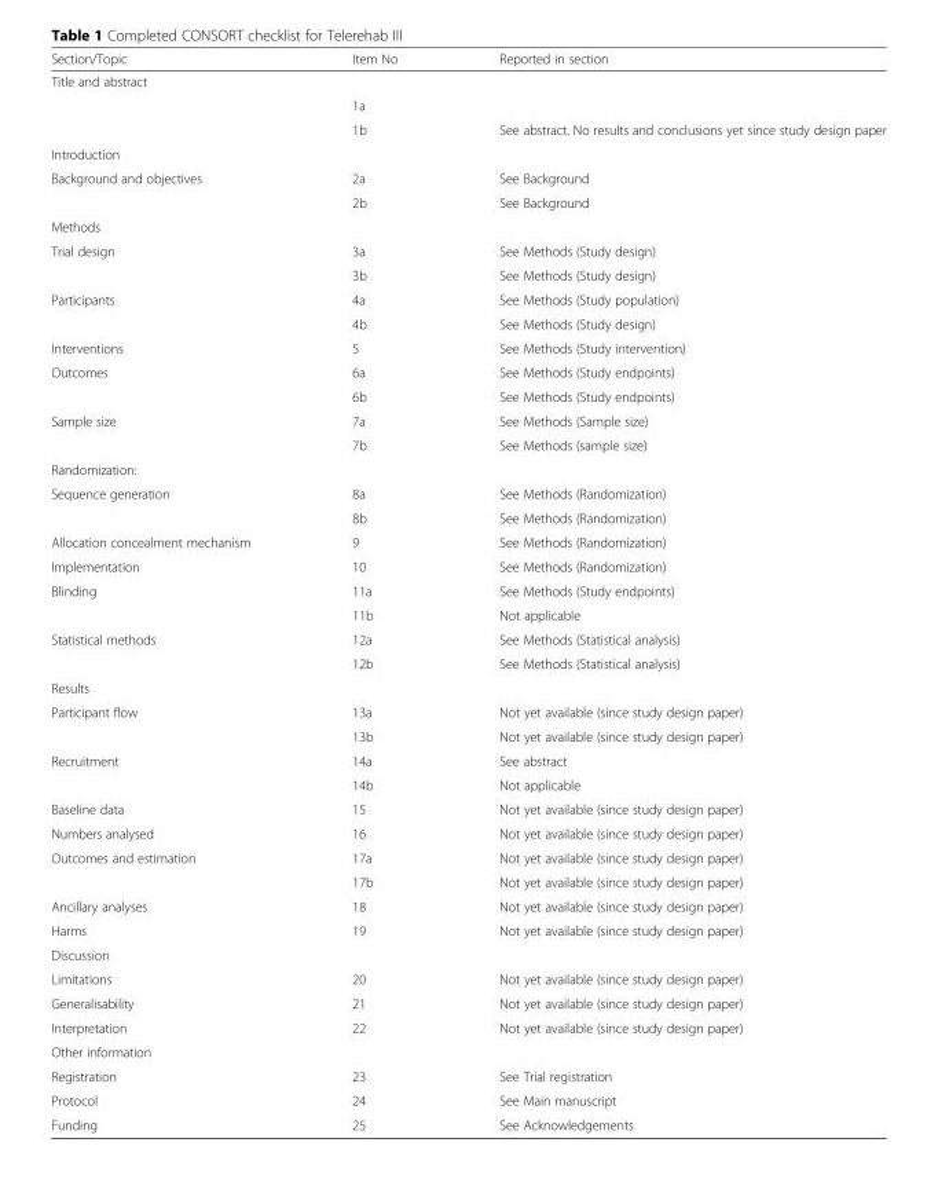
<table><thead><tr><td>Section/Topic</td><td>Item No</td><td>Reported in section</td></tr></thead><tbody><tr><td colspan="3">Title and abstract</td></tr><tr><td></td><td>1a</td><td></td></tr><tr><td></td><td>1b</td><td>See abstract. No results and conclusions yet since study design paper</td></tr><tr><td colspan="3">Introduction</td></tr><tr><td rowspan="2">Background and objectives</td><td>2a</td><td>See Background</td></tr><tr><td>2b</td><td>See Background</td></tr><tr><td colspan="3">Methods</td></tr><tr><td rowspan="2">Trial design</td><td>3a</td><td>See Methods (Study design)</td></tr><tr><td>3b</td><td>See Methods (Study design)</td></tr><tr><td rowspan="2">Participants</td><td>4a</td><td>See Methods (Study population)</td></tr><tr><td>4b</td><td>See Methods (Study design)</td></tr><tr><td>Interventions</td><td>5</td><td>See Methods (Study intervention)</td></tr><tr><td rowspan="2">Outcomes</td><td>6a</td><td>See Methods (Study endpoints)</td></tr><tr><td>6b</td><td>See Methods (Study endpoints)</td></tr><tr><td rowspan="2">Sample size</td><td>7a</td><td>See Methods (Sample size)</td></tr><tr><td>7b</td><td>See Methods (sample size)</td></tr><tr><td colspan="3">Randomization:</td></tr><tr><td rowspan="2">Sequence generation</td><td>8a</td><td>See Methods (Randomization)</td></tr><tr><td>8b</td><td>See Methods (Randomization)</td></tr><tr><td>Allocation concealment mechanism</td><td>9</td><td>See Methods (Randomization)</td></tr><tr><td>Implementation</td><td>10</td><td>See Methods (Randomization)</td></tr><tr><td rowspan="2">Blinding</td><td>11a</td><td>See Methods (Study endpoints)</td></tr><tr><td>11b</td><td>Not applicable</td></tr><tr><td rowspan="2">Statistical methods</td><td>12a</td><td>See Methods (Statistical analysis)</td></tr><tr><td>12b</td><td>See Methods (Statistical analysis)</td></tr><tr><td colspan="3">Results</td></tr><tr><td rowspan="2">Participant flow</td><td>13a</td><td>Not yet available (since study design paper)</td></tr><tr><td>13b</td><td>Not yet available (since study design paper)</td></tr><tr><td rowspan="2">Recruitment</td><td>14a</td><td>See abstract</td></tr><tr><td>14b</td><td>Not applicable</td></tr><tr><td>Baseline data</td><td>15</td><td>Not yet available (since study design paper)</td></tr><tr><td>Numbers analysed</td><td>16</td><td>Not yet available (since study design paper)</td></tr><tr><td rowspan="2">Outcomes and estimation</td><td>17a</td><td>Not yet available (since study design paper)</td></tr><tr><td>17b</td><td>Not yet available (since study design paper)</td></tr><tr><td>Ancillary analyses</td><td>18</td><td>Not yet available (since study design paper)</td></tr><tr><td>Harms</td><td>19</td><td>Not yet available (since study design paper)</td></tr><tr><td colspan="3">Discussion</td></tr><tr><td>Limitations</td><td>20</td><td>Not yet available (since study design paper)</td></tr><tr><td>Generalisability</td><td>21</td><td>Not yet available (since study design paper)</td></tr><tr><td>Interpretation</td><td>22</td><td>Not yet available (since study design paper)</td></tr><tr><td colspan="3">Other information</td></tr><tr><td>Registration</td><td>23</td><td>See Trial registration</td></tr><tr><td>Protocol</td><td>24</td><td>See Main manuscript</td></tr><tr><td>Funding</td><td>25</td><td>See Acknowledgements</td></tr></tbody></table>